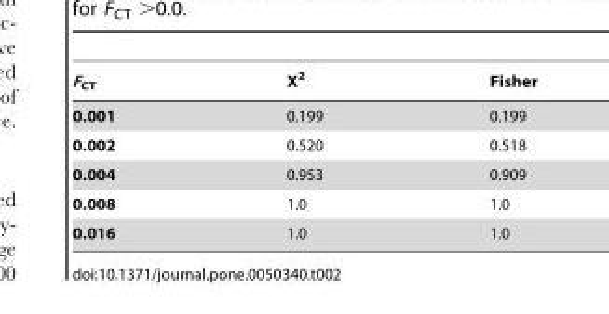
<table><thead><tr><td>F<sub>CT</sub></td><td>X<sup>2</sup></td><td>Fisher</td></tr></thead><tbody><tr><td>0.001</td><td>0.199</td><td>0.199</td></tr><tr><td>0.002</td><td>0.520</td><td>0.518</td></tr><tr><td>0.004</td><td>0.953</td><td>0.909</td></tr><tr><td>0.008</td><td>1.0</td><td>1.0</td></tr><tr><td>0.016</td><td>1.0</td><td>1.0</td></tr></tbody></table>